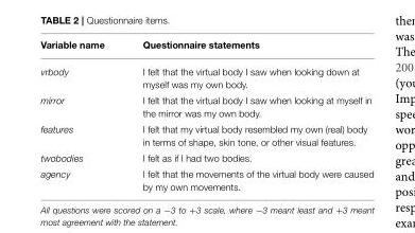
<table><thead><tr><td>Variable name</td><td>Questionnaire statements</td></tr></thead><tbody><tr><td>vrbody</td><td>I felt that the virtual body I saw when looking down at myself was my own body.</td></tr><tr><td>mirror</td><td>I felt that the virtual body I saw when looking at myself in the mirror was my own body.</td></tr><tr><td>features</td><td>I felt that my virtual body resembled my own (real) body in terms of shape, skin tone, or other visual features.</td></tr><tr><td>twobodies</td><td>I felt as if I had two bodies.</td></tr><tr><td>agency</td><td>I felt that the movements of the virtual body were caused by my own movements.</td></tr></tbody></table>